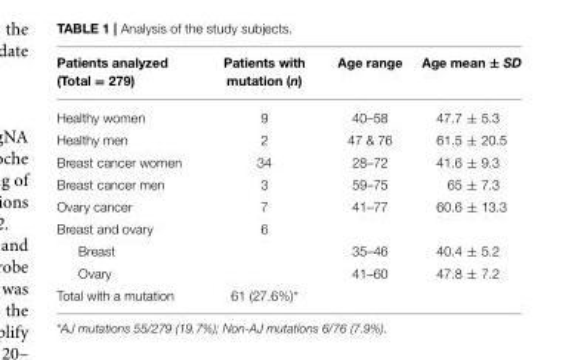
<table><thead><tr><td>Patients analyzed (Total = 279)</td><td>Patients with mutation (n)</td><td>Age range</td><td>Age mean ± SD</td></tr></thead><tbody><tr><td>Healthy women</td><td>9</td><td>40–58</td><td>47.7 ± 5.3</td></tr><tr><td>Healthy men</td><td>2</td><td>47 &amp; 76</td><td>61.5 ± 20.5</td></tr><tr><td>Breast cancer women</td><td>34</td><td>28–72</td><td>41.6 ± 9.3</td></tr><tr><td>Breast cancer men</td><td>3</td><td>59–75</td><td>65 ± 7.3</td></tr><tr><td>Ovary cancer</td><td>7</td><td>41–77</td><td>60.6 ± 13.3</td></tr><tr><td>Breast and ovary</td><td>6</td><td></td><td></td></tr><tr><td>Breast</td><td></td><td>35–46</td><td>40.4 ± 5.2</td></tr><tr><td>Ovary</td><td></td><td>41–60</td><td>47.8 ± 7.2</td></tr><tr><td>Total with a mutation</td><td>61 (27.6%)*</td><td></td><td></td></tr></tbody></table>